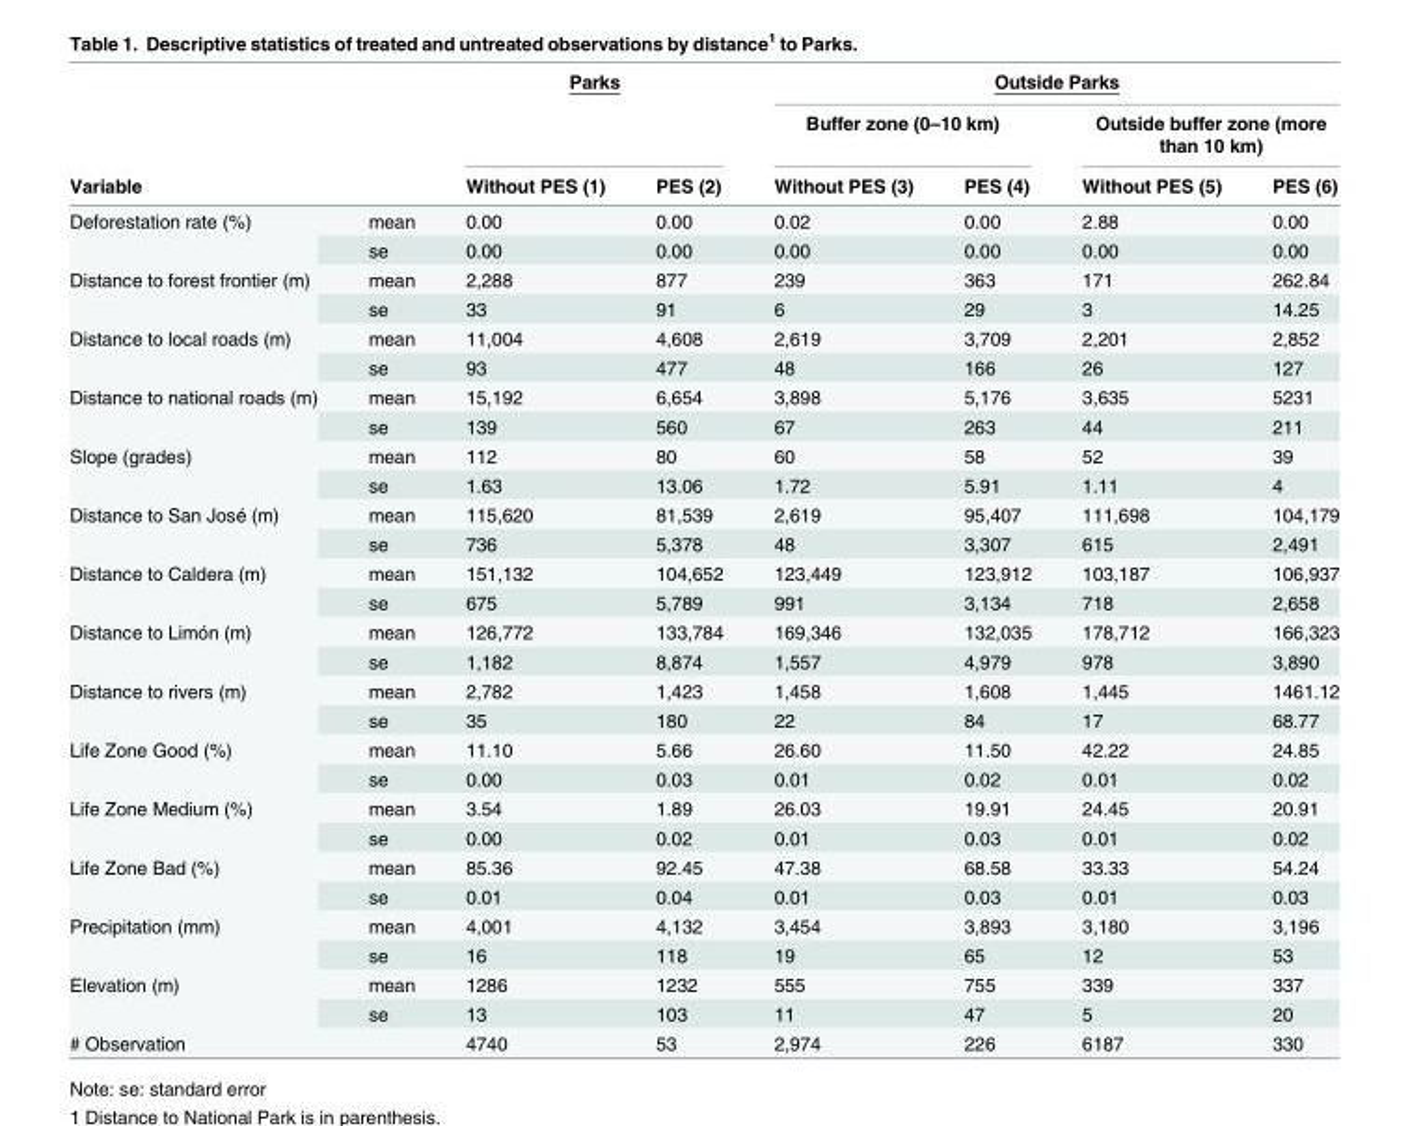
<table><thead><tr><td rowspan="3">Variable</td><td rowspan="3"></td><td colspan="2">Parks</td><td colspan="4">Outside Parks</td></tr><tr><td rowspan="2">Without PES (1)</td><td rowspan="2">PES (2)</td><td colspan="2">Buffer zone (0–10 km)</td><td colspan="2">Outside buffer zone (more than 10 km)</td></tr><tr><td>Without PES (3)</td><td>PES (4)</td><td>Without PES (5)</td><td>PES (6)</td></tr></thead><tbody><tr><td rowspan="2">Deforestation rate (%)</td><td>mean</td><td>0.00</td><td>0.00</td><td>0.02</td><td>0.00</td><td>2.88</td><td>0.00</td></tr><tr><td>se</td><td>0.00</td><td>0.00</td><td>0.00</td><td>0.00</td><td>0.00</td><td>0.00</td></tr><tr><td rowspan="2">Distance to forest frontier (m)</td><td>mean</td><td>2,288</td><td>877</td><td>239</td><td>363</td><td>171</td><td>262.84</td></tr><tr><td>se</td><td>33</td><td>91</td><td>6</td><td>29</td><td>3</td><td>14.25</td></tr><tr><td rowspan="2">Distance to local roads (m)</td><td>mean</td><td>11,004</td><td>4,608</td><td>2,619</td><td>3,709</td><td>2,201</td><td>2,852</td></tr><tr><td>se</td><td>93</td><td>477</td><td>48</td><td>166</td><td>26</td><td>127</td></tr><tr><td rowspan="2">Distance to national roads (m)</td><td>mean</td><td>15,192</td><td>6,654</td><td>3,898</td><td>5,176</td><td>3,635</td><td>5231</td></tr><tr><td>se</td><td>139</td><td>560</td><td>67</td><td>263</td><td>44</td><td>211</td></tr><tr><td rowspan="2">Slope (grades)</td><td>mean</td><td>112</td><td>80</td><td>60</td><td>58</td><td>52</td><td>39</td></tr><tr><td>se</td><td>1.63</td><td>13.06</td><td>1.72</td><td>5.91</td><td>1.11</td><td>4</td></tr><tr><td rowspan="2">Distance to San José (m)</td><td>mean</td><td>115,620</td><td>81,539</td><td>2,619</td><td>95,407</td><td>111,698</td><td>104,179</td></tr><tr><td>se</td><td>736</td><td>5,378</td><td>48</td><td>3,307</td><td>615</td><td>2,491</td></tr><tr><td rowspan="2">Distance to Caldera (m)</td><td>mean</td><td>151,132</td><td>104,652</td><td>123,449</td><td>123,912</td><td>103,187</td><td>106,937</td></tr><tr><td>se</td><td>675</td><td>5,789</td><td>991</td><td>3,134</td><td>718</td><td>2,658</td></tr><tr><td rowspan="2">Distance to Limón (m)</td><td>mean</td><td>126,772</td><td>133,784</td><td>169,346</td><td>132,035</td><td>178,712</td><td>166,323</td></tr><tr><td>se</td><td>1,182</td><td>8,874</td><td>1,557</td><td>4,979</td><td>978</td><td>3,890</td></tr><tr><td rowspan="2">Distance to rivers (m)</td><td>mean</td><td>2,782</td><td>1,423</td><td>1,458</td><td>1,608</td><td>1,445</td><td>1461.12</td></tr><tr><td>se</td><td>35</td><td>180</td><td>22</td><td>84</td><td>17</td><td>68.77</td></tr><tr><td rowspan="2">Life Zone Good (%)</td><td>mean</td><td>11.10</td><td>5.66</td><td>26.60</td><td>11.50</td><td>42.22</td><td>24.85</td></tr><tr><td>se</td><td>0.00</td><td>0.03</td><td>0.01</td><td>0.02</td><td>0.01</td><td>0.02</td></tr><tr><td rowspan="2">Life Zone Medium (%)</td><td>mean</td><td>3.54</td><td>1.89</td><td>26.03</td><td>19.91</td><td>24.45</td><td>20.91</td></tr><tr><td>se</td><td>0.00</td><td>0.02</td><td>0.01</td><td>0.03</td><td>0.01</td><td>0.02</td></tr><tr><td rowspan="2">Life Zone Bad (%)</td><td>mean</td><td>85.36</td><td>92.45</td><td>47.38</td><td>68.58</td><td>33.33</td><td>54.24</td></tr><tr><td>se</td><td>0.01</td><td>0.04</td><td>0.01</td><td>0.03</td><td>0.01</td><td>0.03</td></tr><tr><td rowspan="2">Precipitation (mm)</td><td>mean</td><td>4,001</td><td>4,132</td><td>3,454</td><td>3,893</td><td>3,180</td><td>3,196</td></tr><tr><td>se</td><td>16</td><td>118</td><td>19</td><td>65</td><td>12</td><td>53</td></tr><tr><td rowspan="2">Elevation (m)</td><td>mean</td><td>1286</td><td>1232</td><td>555</td><td>755</td><td>339</td><td>337</td></tr><tr><td>se</td><td>13</td><td>103</td><td>11</td><td>47</td><td>5</td><td>20</td></tr><tr><td># Observation</td><td></td><td>4740</td><td>53</td><td>2,974</td><td>226</td><td>6187</td><td>330</td></tr></tbody></table>